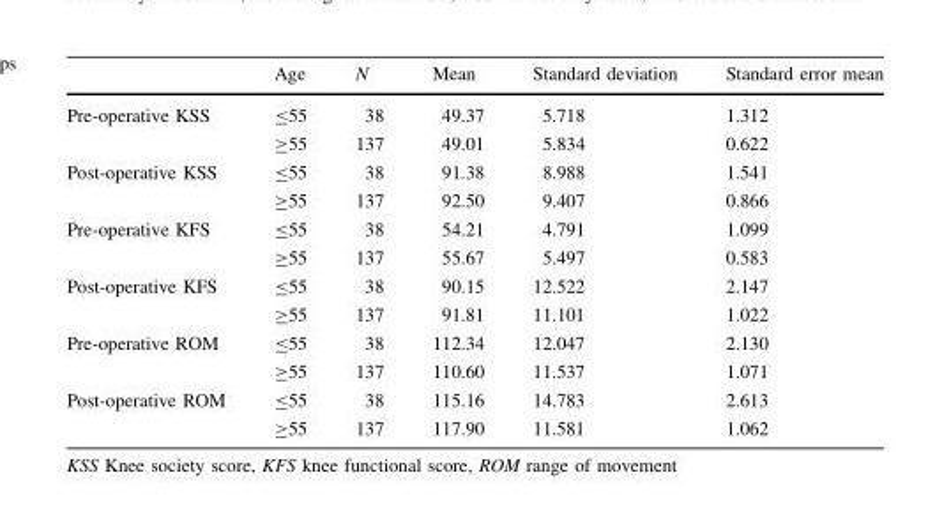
<table><thead><tr><td></td><td>Age</td><td>N</td><td>Mean</td><td>Standard deviation</td><td>Standard error mean</td></tr></thead><tbody><tr><td rowspan="2">Pre-operative KSS</td><td>≤55</td><td>38</td><td>49.37</td><td>5.718</td><td>1.312</td></tr><tr><td>≥55</td><td>137</td><td>49.01</td><td>5.834</td><td>0.622</td></tr><tr><td rowspan="2">Post-operative KSS</td><td>≤55</td><td>38</td><td>91.38</td><td>8.988</td><td>1.541</td></tr><tr><td>≥55</td><td>137</td><td>92.50</td><td>9.407</td><td>0.866</td></tr><tr><td rowspan="2">Pre-operative KFS</td><td>≤55</td><td>38</td><td>54.21</td><td>4.791</td><td>1.099</td></tr><tr><td>≥55</td><td>137</td><td>55.67</td><td>5.497</td><td>0.583</td></tr><tr><td rowspan="2">Post-operative KFS</td><td>≤55</td><td>38</td><td>90.15</td><td>12.522</td><td>2.147</td></tr><tr><td>≥55</td><td>137</td><td>91.81</td><td>11.101</td><td>1.022</td></tr><tr><td rowspan="2">Pre-operative ROM</td><td>≤55</td><td>38</td><td>112.34</td><td>12.047</td><td>2.130</td></tr><tr><td>≥55</td><td>137</td><td>110.60</td><td>11.537</td><td>1.071</td></tr><tr><td rowspan="2">Post-operative ROM</td><td>≤55</td><td>38</td><td>115.16</td><td>14.783</td><td>2.613</td></tr><tr><td>≥55</td><td>137</td><td>117.90</td><td>11.581</td><td>1.062</td></tr></tbody></table>